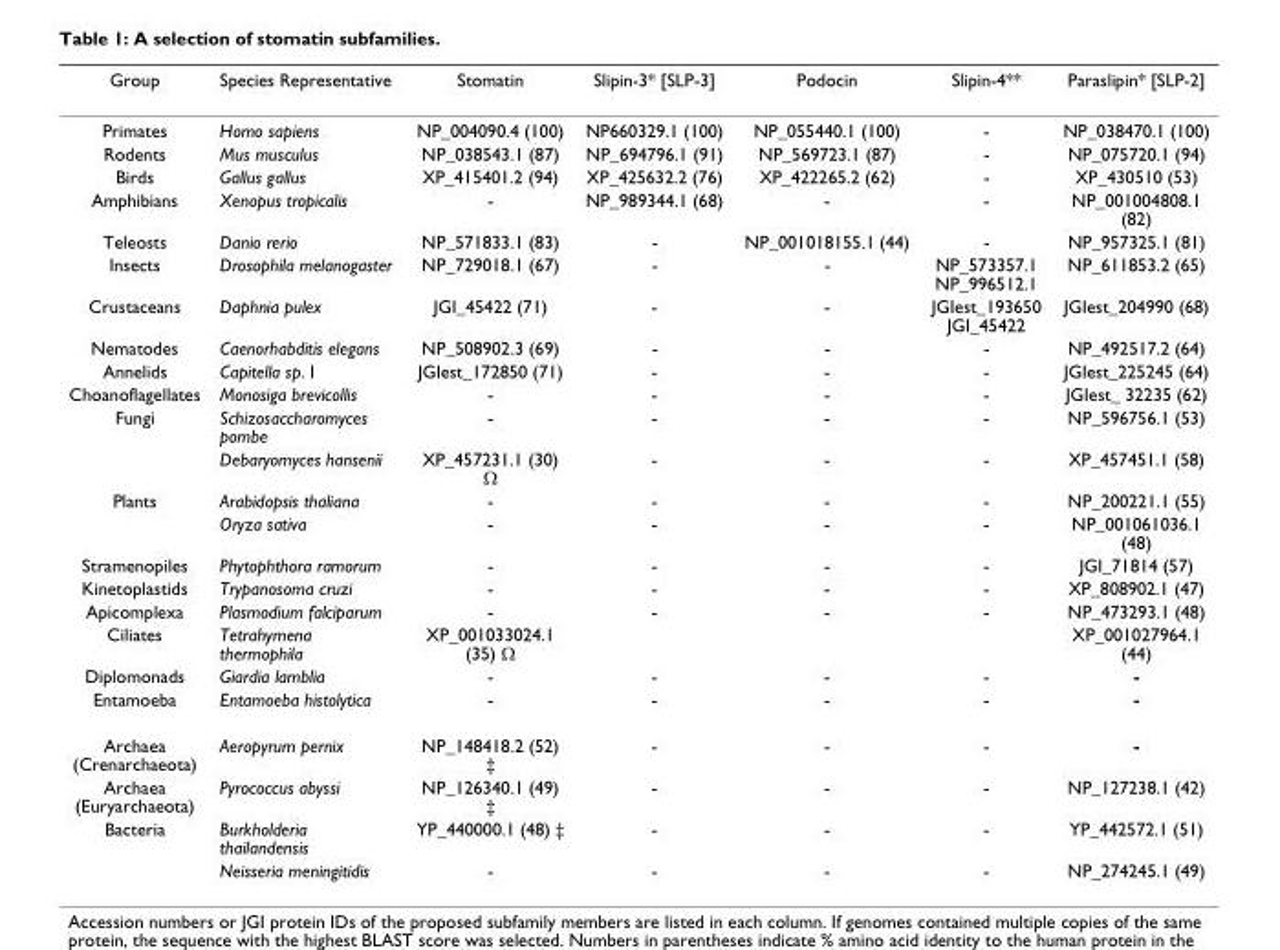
<table><thead><tr><td>Group</td><td>Species Representative</td><td>Stomatin</td><td>Slipin-3* [SLP-3]</td><td>Podocin</td><td>Slipin-4**</td><td>Paraslipin* [SLP-2]</td></tr></thead><tbody><tr><td>Primates</td><td>Homo sapiens</td><td>NP_004090.4 (100)</td><td>NP660329.1 (100)</td><td>NP_055440.1 (100)</td><td>-</td><td>NP_038470.1 (100)</td></tr><tr><td>Rodents</td><td>Mus musculus</td><td>NP_038543.1 (87)</td><td>NP_694796.1 (91)</td><td>NP_569723.1 (87)</td><td>-</td><td>NP_075720.1 (94)</td></tr><tr><td>Birds</td><td>Gallus gallus</td><td>XP_415401.2 (94)</td><td>XP_425632.2 (76)</td><td>XP_422265.2 (62)</td><td>-</td><td>XP_430510 (53)</td></tr><tr><td>Amphibians</td><td>Xenopus tropicalis</td><td>-</td><td>NP_989344.1 (68)</td><td>-</td><td>-</td><td>NP_001004808.1 (82)</td></tr><tr><td>Teleosts</td><td>Danio rerio</td><td>NP_571833.1 (83)</td><td>-</td><td>NP_001018155.1 (44)</td><td>-</td><td>NP_957325.1 (81)</td></tr><tr><td>Insects</td><td>Drosophila melanogaster</td><td>NP_729018.1 (67)</td><td>-</td><td>-</td><td>NP_573357.1 NP_996512.1</td><td>NP_611853.2 (65)</td></tr><tr><td>Crustaceans</td><td>Daphnia pulex</td><td>JGI_45422 (71)</td><td>-</td><td>-</td><td>JGIest_193650 JGI_45422</td><td>JGIest_204990 (68)</td></tr><tr><td>Nematodes</td><td>Caenorhabditis elegans</td><td>NP_508902.3 (69)</td><td>-</td><td>-</td><td>-</td><td>NP_492517.2 (64)</td></tr><tr><td>Annelids</td><td>Capitella sp. I</td><td>JGIest_172850 (71)</td><td>-</td><td>-</td><td>-</td><td>JGIest_225245 (64)</td></tr><tr><td>Choanoflagellates</td><td>Monosiga brevicollis</td><td>-</td><td>-</td><td>-</td><td>-</td><td>JGIest_ 32235 (62)</td></tr><tr><td rowspan="2">Fungi</td><td>Schizosaccharomyces pombe</td><td>-</td><td>-</td><td>-</td><td>-</td><td>NP_596756.1 (53)</td></tr><tr><td>Debaryomyces hansenii</td><td>XP_457231.1 (30) Ω</td><td>-</td><td>-</td><td>-</td><td>XP_457451.1 (58)</td></tr><tr><td rowspan="2">Plants</td><td>Arabidopsis thaliana</td><td>-</td><td>-</td><td>-</td><td>-</td><td>NP_200221.1 (55)</td></tr><tr><td>Oryza sativa</td><td>-</td><td>-</td><td>-</td><td>-</td><td>NP_001061036.1 (48)</td></tr><tr><td>Stramenopiles</td><td>Phytophthora ramorum</td><td>-</td><td>-</td><td>-</td><td>-</td><td>JGI_71814 (57)</td></tr><tr><td>Kinetoplastids</td><td>Trypanosoma cruzi</td><td>-</td><td>-</td><td>-</td><td>-</td><td>XP_808902.1 (47)</td></tr><tr><td>Apicomplexa</td><td>Plasmodium falciparum</td><td>-</td><td>-</td><td>-</td><td>-</td><td>NP_473293.1 (48)</td></tr><tr><td>Ciliates</td><td>Tetrahymena thermophila</td><td>XP_001033024.1 (35) Ω</td><td></td><td></td><td></td><td>XP_001027964.1 (44)</td></tr><tr><td>Diplomonads</td><td>Giardia lamblia</td><td>-</td><td>-</td><td>-</td><td>-</td><td>-</td></tr><tr><td>Entamoeba</td><td>Entamoeba histolytica</td><td>-</td><td>-</td><td>-</td><td>-</td><td>-</td></tr><tr><td>Archaea (Crenarchaeota)</td><td>Aeropyrum pernix</td><td>NP_148418.2 (52) ‡</td><td>-</td><td>-</td><td>-</td><td>-</td></tr><tr><td>Archaea (Euryarchaeota)</td><td>Pyrococcus abyssi</td><td>NP_126340.1 (49) ‡</td><td>-</td><td>-</td><td>-</td><td>NP_127238.1 (42)</td></tr><tr><td rowspan="2">Bacteria</td><td>Burkholderia thailandensis</td><td>YP_440000.1 (48) ‡</td><td>-</td><td>-</td><td>-</td><td>YP_442572.1 (51)</td></tr><tr><td>Neisseria meningitidis</td><td>-</td><td>-</td><td>-</td><td>-</td><td>NP_274245.1 (49)</td></tr></tbody></table>